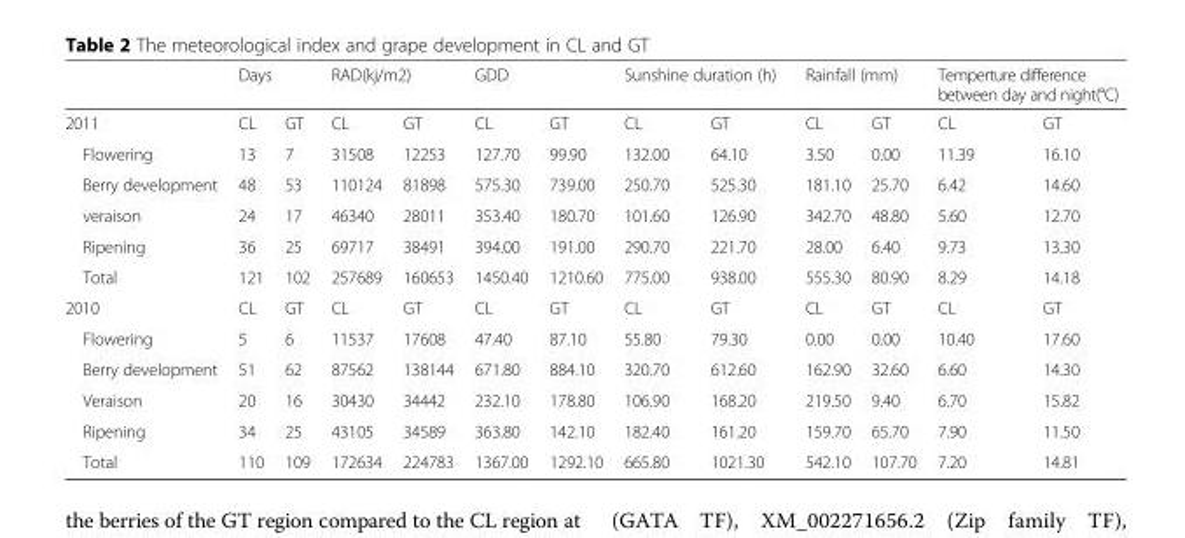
<table><thead><tr><td rowspan="2">2011</td><td colspan="2">Days</td><td colspan="2">RAD(kj/m2)</td><td colspan="2">GDD</td><td colspan="2">Sunshine duration (h)</td><td colspan="2">Rainfall (mm)</td><td colspan="2">Temperture difference between day and night(°C)</td></tr><tr><td>CL</td><td>GT</td><td>CL</td><td>GT</td><td>CL</td><td>GT</td><td>CL</td><td>GT</td><td>CL</td><td>GT</td><td>CL</td><td>GT</td></tr></thead><tbody><tr><td>Flowering</td><td>13</td><td>7</td><td>31508</td><td>12253</td><td>127.70</td><td>99.90</td><td>132.00</td><td>64.10</td><td>3.50</td><td>0.00</td><td>11.39</td><td>16.10</td></tr><tr><td>Berry development</td><td>48</td><td>53</td><td>110124</td><td>81898</td><td>575.30</td><td>739.00</td><td>250.70</td><td>525.30</td><td>181.10</td><td>25.70</td><td>6.42</td><td>14.60</td></tr><tr><td>veraison</td><td>24</td><td>17</td><td>46340</td><td>28011</td><td>353.40</td><td>180.70</td><td>101.60</td><td>126.90</td><td>342.70</td><td>48.80</td><td>5.60</td><td>12.70</td></tr><tr><td>Ripening</td><td>36</td><td>25</td><td>69717</td><td>38491</td><td>394.00</td><td>191.00</td><td>290.70</td><td>221.70</td><td>28.00</td><td>6.40</td><td>9.73</td><td>13.30</td></tr><tr><td>Total</td><td>121</td><td>102</td><td>257689</td><td>160653</td><td>1450.40</td><td>1210.60</td><td>775.00</td><td>938.00</td><td>555.30</td><td>80.90</td><td>8.29</td><td>14.18</td></tr><tr><td>2010</td><td>CL</td><td>GT</td><td>CL</td><td>GT</td><td>CL</td><td>GT</td><td>CL</td><td>GT</td><td>CL</td><td>GT</td><td>CL</td><td>GT</td></tr><tr><td>Flowering</td><td>5</td><td>6</td><td>11537</td><td>17608</td><td>47.40</td><td>87.10</td><td>55.80</td><td>79.30</td><td>0.00</td><td>0.00</td><td>10.40</td><td>17.60</td></tr><tr><td>Berry development</td><td>51</td><td>62</td><td>87562</td><td>138144</td><td>671.80</td><td>884.10</td><td>320.70</td><td>612.60</td><td>162.90</td><td>32.60</td><td>6.60</td><td>14.30</td></tr><tr><td>Veraison</td><td>20</td><td>16</td><td>30430</td><td>34442</td><td>232.10</td><td>178.80</td><td>106.90</td><td>168.20</td><td>219.50</td><td>9.40</td><td>6.70</td><td>15.82</td></tr><tr><td>Ripening</td><td>34</td><td>25</td><td>43105</td><td>34589</td><td>363.80</td><td>142.10</td><td>182.40</td><td>161.20</td><td>159.70</td><td>65.70</td><td>7.90</td><td>11.50</td></tr><tr><td>Total</td><td>110</td><td>109</td><td>172634</td><td>224783</td><td>1367.00</td><td>1292.10</td><td>665.80</td><td>1021.30</td><td>542.10</td><td>107.70</td><td>7.20</td><td>14.81</td></tr></tbody></table>